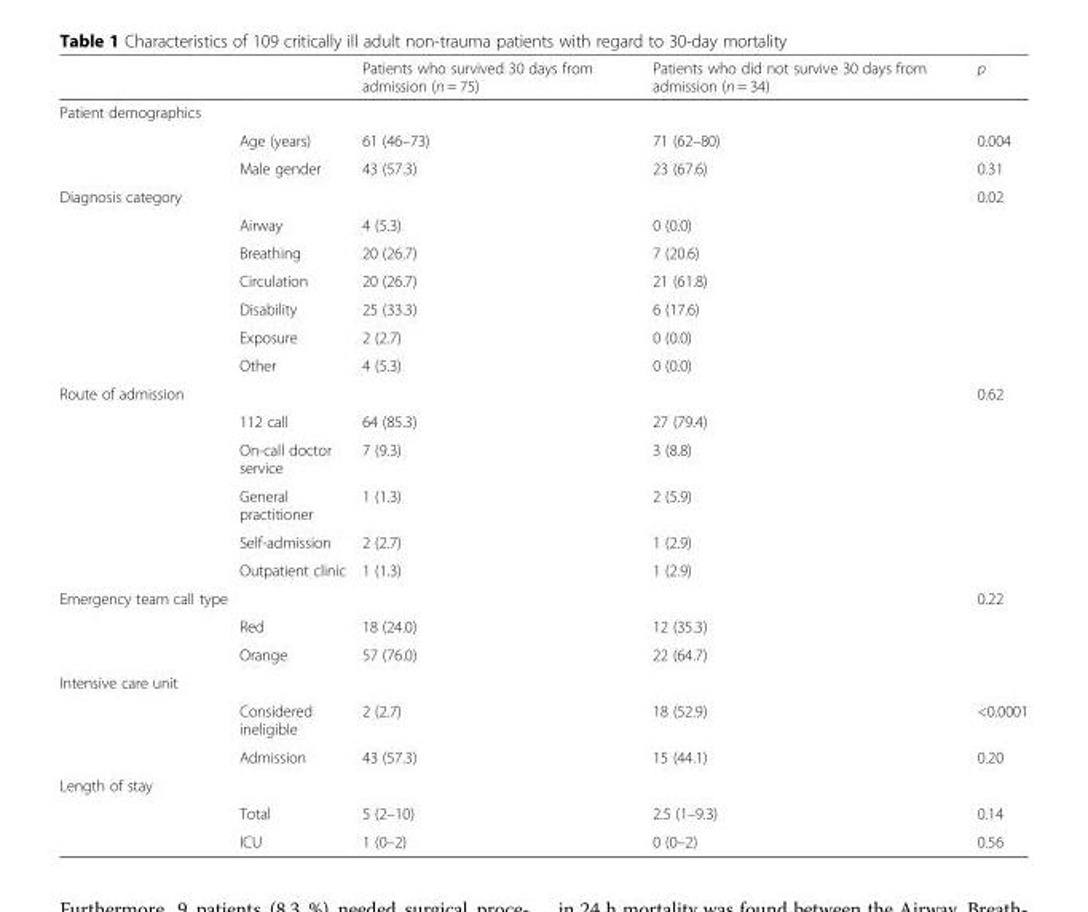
<table><thead><tr><td></td><td></td><td>Patients who survived 30 days from admission (n = 75)</td><td>Patients who did not survive 30 days from admission (n = 34)</td><td>p</td></tr></thead><tbody><tr><td colspan="5">Patient demographics</td></tr><tr><td></td><td>Age (years)</td><td>61 (46–73)</td><td>71 (62–80)</td><td>0.004</td></tr><tr><td></td><td>Male gender</td><td>43 (57.3)</td><td>23 (67.6)</td><td>0.31</td></tr><tr><td rowspan="7">Diagnosis category</td><td></td><td></td><td></td><td>0.02</td></tr><tr><td>Airway</td><td>4 (5.3)</td><td>0 (0.0)</td><td></td></tr><tr><td>Breathing</td><td>20 (26.7)</td><td>7 (20.6)</td><td></td></tr><tr><td>Circulation</td><td>20 (26.7)</td><td>21 (61.8)</td><td></td></tr><tr><td>Disability</td><td>25 (33.3)</td><td>6 (17.6)</td><td></td></tr><tr><td>Exposure</td><td>2 (2.7)</td><td>0 (0.0)</td><td></td></tr><tr><td>Other</td><td>4 (5.3)</td><td>0 (0.0)</td><td></td></tr><tr><td rowspan="6">Route of admission</td><td></td><td></td><td></td><td>0.62</td></tr><tr><td>112 call</td><td>64 (85.3)</td><td>27 (79.4)</td><td></td></tr><tr><td>On-call doctor service</td><td>7 (9.3)</td><td>3 (8.8)</td><td></td></tr><tr><td>General practitioner</td><td>1 (1.3)</td><td>2 (5.9)</td><td></td></tr><tr><td>Self-admission</td><td>2 (2.7)</td><td>1 (2.9)</td><td></td></tr><tr><td>Outpatient clinic</td><td>1 (1.3)</td><td>1 (2.9)</td><td></td></tr><tr><td rowspan="3">Emergency team call type</td><td></td><td></td><td></td><td>0.22</td></tr><tr><td>Red</td><td>18 (24.0)</td><td>12 (35.3)</td><td></td></tr><tr><td>Orange</td><td>57 (76.0)</td><td>22 (64.7)</td><td></td></tr><tr><td colspan="5">Intensive care unit</td></tr><tr><td></td><td>Considered ineligible</td><td>2 (2.7)</td><td>18 (52.9)</td><td>&lt;0.0001</td></tr><tr><td></td><td>Admission</td><td>43 (57.3)</td><td>15 (44.1)</td><td>0.20</td></tr><tr><td colspan="5">Length of stay</td></tr><tr><td></td><td>Total</td><td>5 (2–10)</td><td>2.5 (1–9.3)</td><td>0.14</td></tr><tr><td></td><td>ICU</td><td>1 (0–2)</td><td>0 (0–2)</td><td>0.56</td></tr></tbody></table>